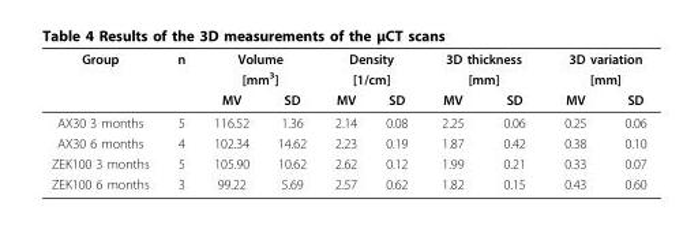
<table><thead><tr><td rowspan="3">Group</td><td rowspan="3">n</td><td rowspan="2" colspan="2">Volume [mm<sup>3</sup>]</td><td rowspan="2" colspan="2">Density [1/cm]</td><td rowspan="2" colspan="2">3D thickness [mm]</td><td rowspan="2" colspan="2">3D variation [mm]</td></tr><tr></tr><tr><td>MV</td><td>SD</td><td>MV</td><td>SD</td><td>MV</td><td>SD</td><td>MV</td><td>SD</td></tr></thead><tbody><tr><td>AX30 3 months</td><td>5</td><td>116.52</td><td>1.36</td><td>2.14</td><td>0.08</td><td>2.25</td><td>0.06</td><td>0.25</td><td>0.06</td></tr><tr><td>AX30 6 months</td><td>4</td><td>102.34</td><td>14.62</td><td>2.23</td><td>0.19</td><td>1.87</td><td>0.42</td><td>0.38</td><td>0.10</td></tr><tr><td>ZEK100 3 months</td><td>5</td><td>105.90</td><td>10.62</td><td>2.62</td><td>0.12</td><td>1.99</td><td>0.21</td><td>0.33</td><td>0.07</td></tr><tr><td>ZEK100 6 months</td><td>3</td><td>99.22</td><td>5.69</td><td>2.57</td><td>0.62</td><td>1.82</td><td>0.15</td><td>0.43</td><td>0.60</td></tr></tbody></table>